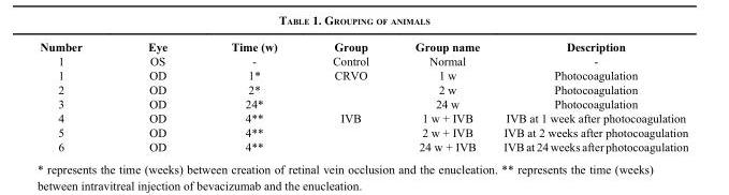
<table><thead><tr><td>Number</td><td>Eye</td><td>Time (w)</td><td>Group</td><td>Group name</td><td>Description</td></tr></thead><tbody><tr><td>1</td><td>OS</td><td>-</td><td>Control</td><td>Normal</td><td>-</td></tr><tr><td>1</td><td>OD</td><td>1*</td><td>CRVO</td><td>1 w</td><td>Photocoagulation</td></tr><tr><td>2</td><td>OD</td><td>2*</td><td></td><td>2 w</td><td>Photocoagulation</td></tr><tr><td>3</td><td>OD</td><td>24*</td><td></td><td>24 w</td><td>Photocoagulation</td></tr><tr><td>4</td><td>OD</td><td>4**</td><td>IVB</td><td>1 w + IVB</td><td>IVB at 1 week after photocoagulation</td></tr><tr><td>5</td><td>OD</td><td>4**</td><td></td><td>2 w + IVB</td><td>IVB at 2 weeks after photocoagulation</td></tr><tr><td>6</td><td>OD</td><td>4**</td><td></td><td>24 w + IVB</td><td>IVB at 24 weeks after photocoagulation</td></tr></tbody></table>